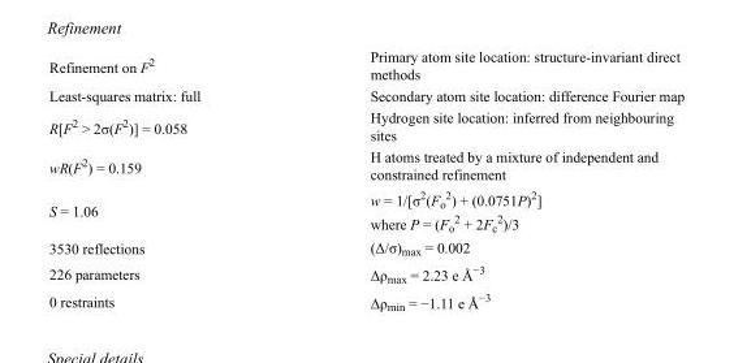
<table><tbody><tr><td>Refinement on F<sup>2</sup></td><td>Primary atom site location: structure-invariant direct methods</td></tr><tr><td>Least-squares matrix: full</td><td>Secondary atom site location: difference Fourier map</td></tr><tr><td>R[F<sup>2</sup> &gt; 2σ(F<sup>2</sup>)] = 0.058</td><td>Hydrogen site location: inferred from neighbouring sites</td></tr><tr><td>wR(F<sup>2</sup>) = 0.159</td><td>H atoms treated by a mixture of independent and constrained refinement</td></tr><tr><td>S = 1.06</td><td>w = 1/[σ<sup>2</sup>(F<sub>o</sub> <sup>2</sup>) + (0.0751P)<sup>2</sup>] where P = (F<sub>o</sub> <sup>2</sup> + 2F<sub>c</sub> <sup>2</sup>)/3</td></tr><tr><td>3530 reflections</td><td>(Δ/σ)<sub>max</sub> = 0.002</td></tr><tr><td>226 parameters</td><td>Δρ<sub>max</sub> = 2.23 e Å<sup>−3</sup></td></tr><tr><td>0 restraints</td><td>Δρ<sub>min</sub> = −1.11 e Å<sup>−3</sup></td></tr></tbody></table>